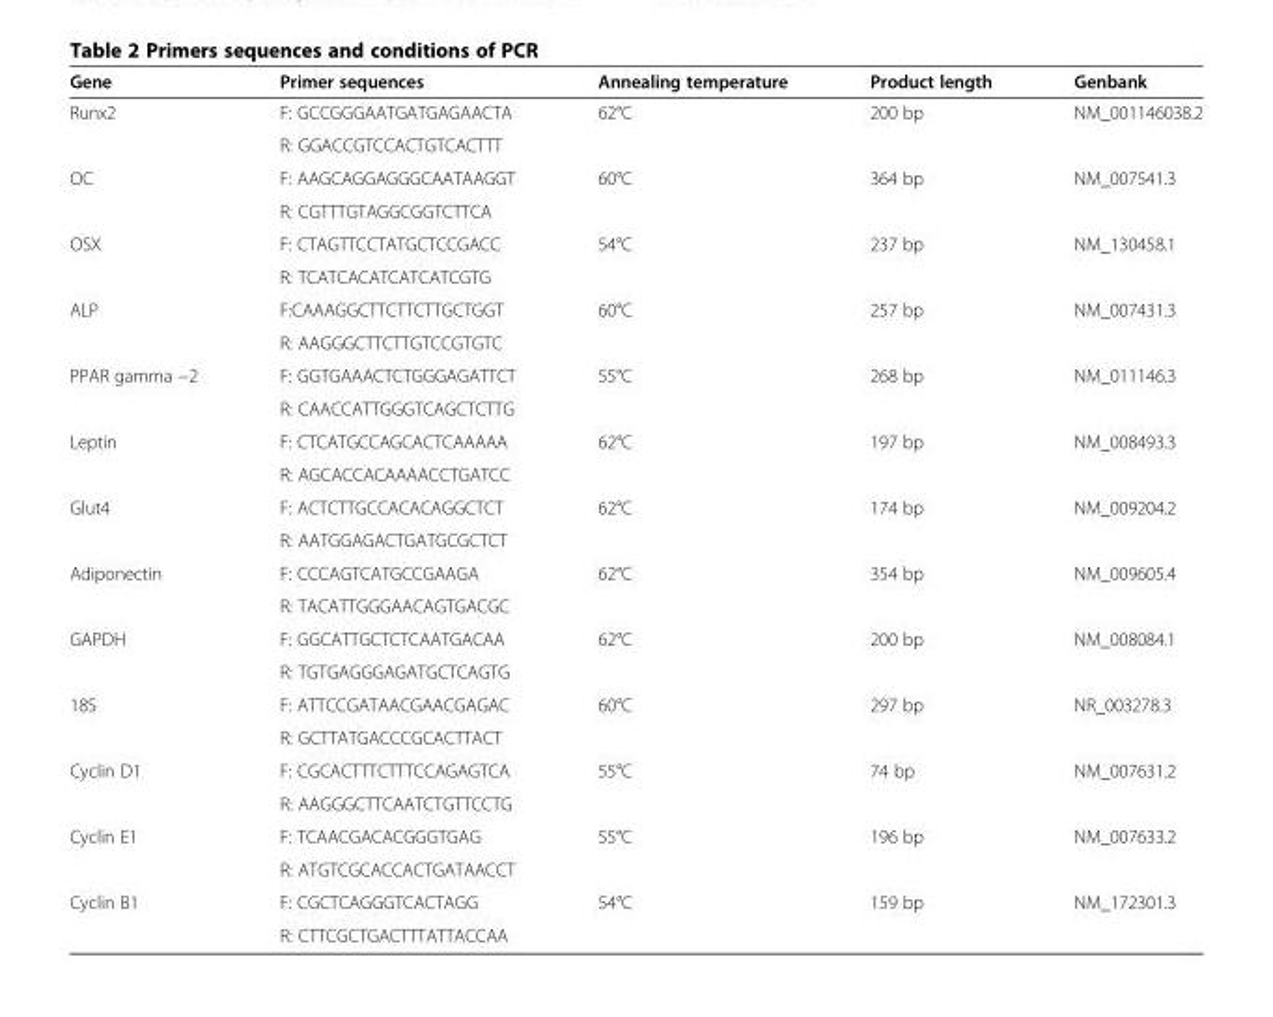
<table><thead><tr><td>Gene</td><td>Primer sequences</td><td>Annealing temperature</td><td>Product length</td><td>Genbank</td></tr></thead><tbody><tr><td rowspan="2">Runx2</td><td>F: GCCGGGAATGATGAGAACTA</td><td rowspan="2">62°C</td><td rowspan="2">200 bp</td><td rowspan="2">NM_001146038.2</td></tr><tr><td>R: GGACCGTCCACTGTCACTTT</td></tr><tr><td rowspan="2">OC</td><td>F: AAGCAGGAGGGCAATAAGGT</td><td rowspan="2">60°C</td><td rowspan="2">364 bp</td><td rowspan="2">NM_007541.3</td></tr><tr><td>R: CGTTTGTAGGCGGTCTTCA</td></tr><tr><td rowspan="2">OSX</td><td>F: CTAGTTCCTATGCTCCGACC</td><td rowspan="2">54°C</td><td rowspan="2">237 bp</td><td rowspan="2">NM_130458.1</td></tr><tr><td>R: TCATCACATCATCATCGTG</td></tr><tr><td rowspan="2">ALP</td><td>F:CAAAGGCTTCTTCTTGCTGGT</td><td rowspan="2">60°C</td><td rowspan="2">257 bp</td><td rowspan="2">NM_007431.3</td></tr><tr><td>R: AAGGGCTTCTTGTCCGTGTC</td></tr><tr><td rowspan="2">PPAR gamma −2</td><td>F: GGTGAAACTCTGGGAGATTCT</td><td rowspan="2">55°C</td><td rowspan="2">268 bp</td><td rowspan="2">NM_011146.3</td></tr><tr><td>R: CAACCATTGGGTCAGCTCTTG</td></tr><tr><td rowspan="2">Leptin</td><td>F: CTCATGCCAGCACTCAAAAA</td><td rowspan="2">62°C</td><td rowspan="2">197 bp</td><td rowspan="2">NM_008493.3</td></tr><tr><td>R: AGCACCACAAAACCTGATCC</td></tr><tr><td rowspan="2">Glut4</td><td>F: ACTCTTGCCACACAGGCTCT</td><td rowspan="2">62°C</td><td rowspan="2">174 bp</td><td rowspan="2">NM_009204.2</td></tr><tr><td>R: AATGGAGACTGATGCGCTCT</td></tr><tr><td rowspan="2">Adiponectin</td><td>F: CCCAGTCATGCCGAAGA</td><td rowspan="2">62°C</td><td rowspan="2">354 bp</td><td rowspan="2">NM_009605.4</td></tr><tr><td>R: TACATTGGGAACAGTGACGC</td></tr><tr><td rowspan="2">GAPDH</td><td>F: GGCATTGCTCTCAATGACAA</td><td rowspan="2">62°C</td><td rowspan="2">200 bp</td><td rowspan="2">NM_008084.1</td></tr><tr><td>R: TGTGAGGGAGATGCTCAGTG</td></tr><tr><td rowspan="2">18S</td><td>F: ATTCCGATAACGAACGAGAC</td><td rowspan="2">60°C</td><td rowspan="2">297 bp</td><td rowspan="2">NR_003278.3</td></tr><tr><td>R: GCTTATGACCCGCACTTACT</td></tr><tr><td rowspan="2">Cyclin D1</td><td>F: CGCACTTTCTTTCCAGAGTCA</td><td rowspan="2">55°C</td><td rowspan="2">74 bp</td><td rowspan="2">NM_007631.2</td></tr><tr><td>R: AAGGGCTTCAATCTGTTCCTG</td></tr><tr><td rowspan="2">Cyclin E1</td><td>F: TCAACGACACGGGTGAG</td><td rowspan="2">55°C</td><td rowspan="2">196 bp</td><td rowspan="2">NM_007633.2</td></tr><tr><td>R: ATGTCGCACCACTGATAACCT</td></tr><tr><td rowspan="2">Cyclin B1</td><td>F: CGCTCAGGGTCACTAGG</td><td rowspan="2">54°C</td><td rowspan="2">159 bp</td><td rowspan="2">NM_172301.3</td></tr><tr><td>R: CTTCGCTGACTTTATTACCAA</td></tr></tbody></table>